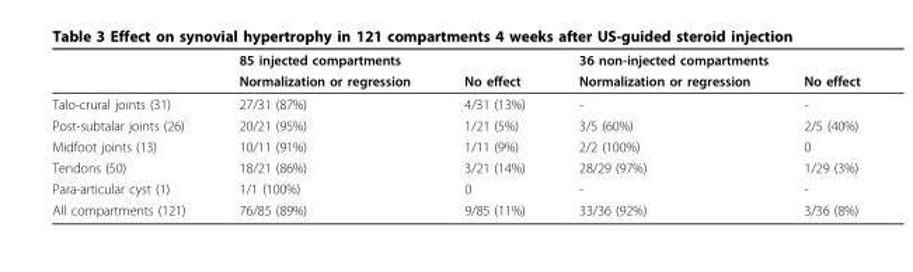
<table><thead><tr><td rowspan="2"></td><td colspan="2">85 injected compartments</td><td colspan="2">36 non-injected compartments</td></tr><tr><td>Normalization or regression</td><td>No effect</td><td>Normalization or regression</td><td>No effect</td></tr></thead><tbody><tr><td>Talo-crural joints (31)</td><td>27/31 (87%)</td><td>4/31 (13%)</td><td>-</td><td>-</td></tr><tr><td>Post-subtalar joints (26)</td><td>20/21 (95%)</td><td>1/21 (5%)</td><td>3/5 (60%)</td><td>2/5 (40%)</td></tr><tr><td>Midfoot joints (13)</td><td>10/11 (91%)</td><td>1/11 (9%)</td><td>2/2 (100%)</td><td>0</td></tr><tr><td>Tendons (50)</td><td>18/21 (86%)</td><td>3/21 (14%)</td><td>28/29 (97%)</td><td>1/29 (3%)</td></tr><tr><td>Para-articular cyst (1)</td><td>1/1 (100%)</td><td>0</td><td>-</td><td>-</td></tr><tr><td>All compartments (121)</td><td>76/85 (89%)</td><td>9/85 (11%)</td><td>33/36 (92%)</td><td>3/36 (8%)</td></tr></tbody></table>